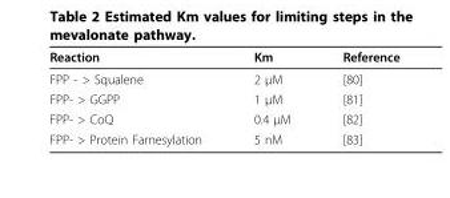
<table><thead><tr><td>Reaction</td><td>Km</td><td>Reference</td></tr></thead><tbody><tr><td>FPP - &gt; Squalene</td><td>2 μM</td><td>[80]</td></tr><tr><td>FPP- &gt; GGPP</td><td>1 μM</td><td>[81]</td></tr><tr><td>FPP- &gt; CoQ</td><td>0.4 μM</td><td>[82]</td></tr><tr><td>FPP- &gt; Protein Farnesylation</td><td>5 nM</td><td>[83]</td></tr></tbody></table>